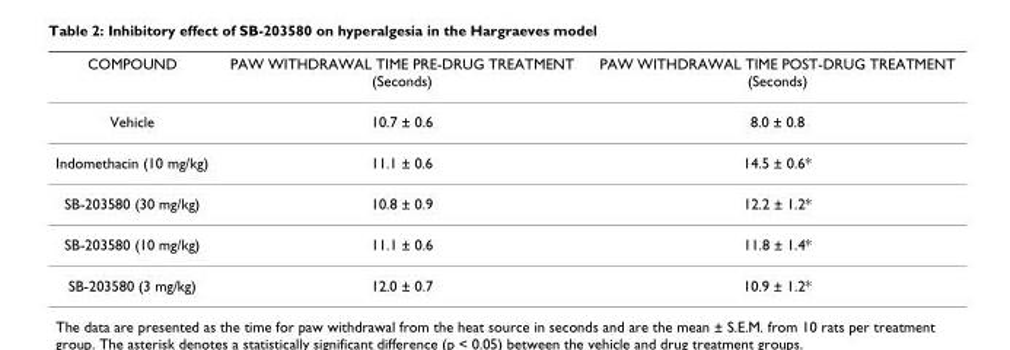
<table><thead><tr><td>COMPOUND</td><td>PAW WITHDRAWAL TIME PRE-DRUG TREATMENT (Seconds)</td><td>PAW WITHDRAWAL TIME POST-DRUG TREATMENT (Seconds)</td></tr></thead><tbody><tr><td>Vehicle</td><td>10.7 ± 0.6</td><td>8.0 ± 0.8</td></tr><tr><td>Indomethacin (10 mg/kg)</td><td>11.1 ± 0.6</td><td>14.5 ± 0.6*</td></tr><tr><td>SB-203580 (30 mg/kg)</td><td>10.8 ± 0.9</td><td>12.2 ± 1.2*</td></tr><tr><td>SB-203580 (10 mg/kg)</td><td>11.1 ± 0.6</td><td>11.8 ± 1.4*</td></tr><tr><td>SB-203580 (3 mg/kg)</td><td>12.0 ± 0.7</td><td>10.9 ± 1.2*</td></tr></tbody></table>